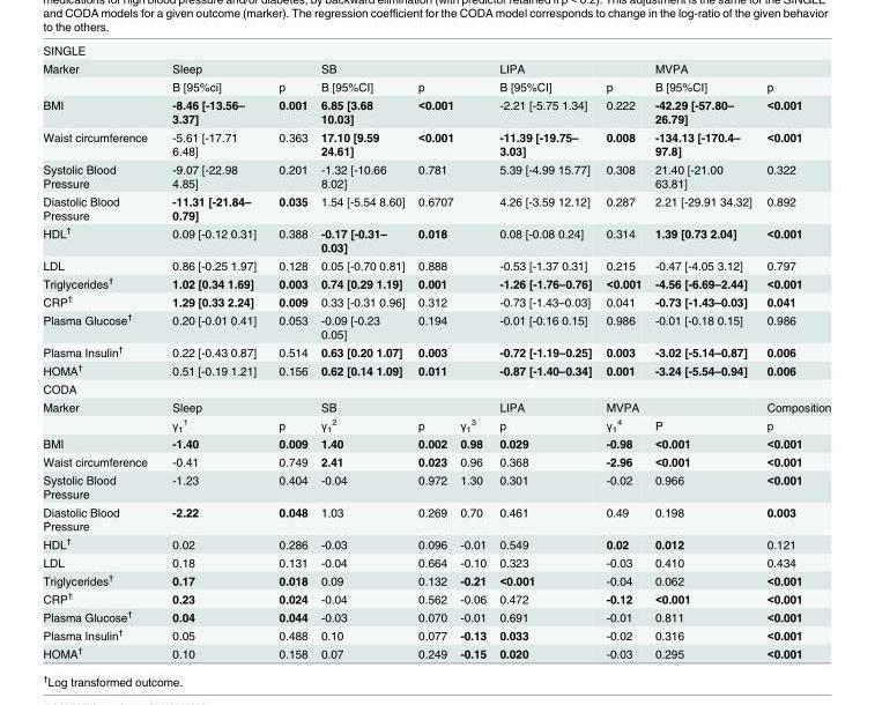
<table><tbody><tr><td colspan="10">SINGLE</td></tr><tr><td rowspan="2">Marker</td><td>Sleep</td><td></td><td>SB</td><td colspan="2"></td><td>LIPA</td><td></td><td>MVPA</td><td></td></tr><tr><td>B [95%ci]</td><td>p</td><td>B [95%CI]</td><td colspan="2">p</td><td>B [95%CI]</td><td>p</td><td>B [95%CI]</td><td>p</td></tr><tr><td>BMI</td><td>-8.46 [-13.56– 3.37]</td><td>0.001</td><td>6.85 [3.68 10.03]</td><td colspan="2">&lt;0.001</td><td>-2.21 [-5.75 1.34]</td><td>0.222</td><td>-42.29 [-57.80– 26.79]</td><td>&lt;0.001</td></tr><tr><td>Waist circumference</td><td>-5.61 [-17.71 6.48]</td><td>0.363</td><td>17.10 [9.59 24.61]</td><td colspan="2">&lt;0.001</td><td>-11.39 [-19.75– 3.03]</td><td>0.008</td><td>-134.13 [-170.4– 97.8]</td><td>&lt;0.001</td></tr><tr><td>Systolic Blood Pressure</td><td>-9.07 [-22.98 4.85]</td><td>0.201</td><td>-1.32 [-10.66 8.02]</td><td colspan="2">0.781</td><td>5.39 [-4.99 15.77]</td><td>0.308</td><td>21.40 [-21.00 63.81]</td><td>0.322</td></tr><tr><td>Diastolic Blood Pressure</td><td>-11.31 [-21.84– 0.79]</td><td>0.035</td><td>1.54 [-5.54 8.60]</td><td colspan="2">0.6707</td><td>4.26 [-3.59 12.12]</td><td>0.287</td><td>2.21 [-29.91 34.32]</td><td>0.892</td></tr><tr><td>HDL<sup>†</sup></td><td>0.09 [-0.12 0.31]</td><td>0.388</td><td>-0.17 [-0.31– 0.03]</td><td colspan="2">0.018</td><td>0.08 [-0.08 0.24]</td><td>0.314</td><td>1.39 [0.73 2.04]</td><td>&lt;0.001</td></tr><tr><td>LDL</td><td>0.86 [-0.25 1.97]</td><td>0.128</td><td>0.05 [-0.70 0.81]</td><td colspan="2">0.888</td><td>-0.53 [-1.37 0.31]</td><td>0.215</td><td>-0.47 [-4.05 3.12]</td><td>0.797</td></tr><tr><td>Triglycerides<sup>†</sup></td><td>1.02 [0.34 1.69]</td><td>0.003</td><td>0.74 [0.29 1.19]</td><td colspan="2">0.001</td><td>-1.26 [-1.76–0.76]</td><td>&lt;0.001</td><td>-4.56 [-6.69–2.44]</td><td>&lt;0.001</td></tr><tr><td>CRP<sup>†</sup></td><td>1.29 [0.33 2.24]</td><td>0.009</td><td>0.33 [-0.31 0.96]</td><td colspan="2">0.312</td><td>-0.73 [-1.43–0.03]</td><td>0.041</td><td>-0.73 [-1.43–0.03]</td><td>0.041</td></tr><tr><td>Plasma Glucose<sup>†</sup></td><td>0.20 [-0.01 0.41]</td><td>0.053</td><td>-0.09 [-0.23 0.05]</td><td colspan="2">0.194</td><td>-0.01 [-0.16 0.15]</td><td>0.986</td><td>-0.01 [-0.18 0.15]</td><td>0.986</td></tr><tr><td>Plasma Insulin<sup>†</sup></td><td>0.22 [-0.43 0.87]</td><td>0.514</td><td>0.63 [0.20 1.07]</td><td colspan="2">0.003</td><td>-0.72 [-1.19–0.25]</td><td>0.003</td><td>-3.02 [-5.14–0.87]</td><td>0.006</td></tr><tr><td>HOMA<sup>†</sup></td><td>0.51 [-0.19 1.21]</td><td>0.156</td><td>0.62 [0.14 1.09]</td><td colspan="2">0.011</td><td>-0.87 [-1.40–0.34]</td><td>0.001</td><td>-3.24 [-5.54–0.94]</td><td>0.006</td></tr><tr><td colspan="10">CODA</td></tr><tr><td rowspan="2">Marker</td><td>Sleep</td><td></td><td>SB</td><td colspan="2"></td><td>LIPA</td><td colspan="2">MVPA</td><td>Composition</td></tr><tr><td>γ<sub>1</sub> <sup>1</sup></td><td>p</td><td>γ<sub>1</sub> <sup>2</sup></td><td>p</td><td>γ<sub>1</sub> <sup>3</sup></td><td>p</td><td>γ<sub>1</sub> <sup>4</sup></td><td>P</td><td>p</td></tr><tr><td>BMI</td><td>-1.40</td><td>0.009</td><td>1.40</td><td>0.002</td><td>0.98</td><td>0.029</td><td>-0.98</td><td>&lt;0.001</td><td>&lt;0.001</td></tr><tr><td>Waist circumference</td><td>-0.41</td><td>0.749</td><td>2.41</td><td>0.023</td><td>0.96</td><td>0.368</td><td>-2.96</td><td>&lt;0.001</td><td>&lt;0.001</td></tr><tr><td>Systolic Blood Pressure</td><td>-1.23</td><td>0.404</td><td>-0.04</td><td>0.972</td><td>1.30</td><td>0.301</td><td>-0.02</td><td>0.966</td><td>&lt;0.001</td></tr><tr><td>Diastolic Blood Pressure</td><td>-2.22</td><td>0.048</td><td>1.03</td><td>0.269</td><td>0.70</td><td>0.461</td><td>0.49</td><td>0.198</td><td>0.003</td></tr><tr><td>HDL<sup>†</sup></td><td>0.02</td><td>0.286</td><td>-0.03</td><td>0.096</td><td>-0.01</td><td>0.549</td><td>0.02</td><td>0.012</td><td>0.121</td></tr><tr><td>LDL</td><td>0.18</td><td>0.131</td><td>-0.04</td><td>0.664</td><td>-0.10</td><td>0.323</td><td>-0.03</td><td>0.410</td><td>0.434</td></tr><tr><td>Triglycerides<sup>†</sup></td><td>0.17</td><td>0.018</td><td>0.09</td><td>0.132</td><td>-0.21</td><td>&lt;0.001</td><td>-0.04</td><td>0.062</td><td>&lt;0.001</td></tr><tr><td>CRP<sup>†</sup></td><td>0.23</td><td>0.024</td><td>-0.04</td><td>0.562</td><td>-0.06</td><td>0.472</td><td>-0.12</td><td>&lt;0.001</td><td>&lt;0.001</td></tr><tr><td>Plasma Glucose<sup>†</sup></td><td>0.04</td><td>0.044</td><td>-0.03</td><td>0.070</td><td>-0.01</td><td>0.691</td><td>-0.01</td><td>0.811</td><td>&lt;0.001</td></tr><tr><td>Plasma Insulin<sup>†</sup></td><td>0.05</td><td>0.488</td><td>0.10</td><td>0.077</td><td>-0.13</td><td>0.033</td><td>-0.02</td><td>0.316</td><td>&lt;0.001</td></tr><tr><td>HOMA<sup>†</sup></td><td>0.10</td><td>0.158</td><td>0.07</td><td>0.249</td><td>-0.15</td><td>0.020</td><td>-0.03</td><td>0.295</td><td>&lt;0.001</td></tr></tbody></table>